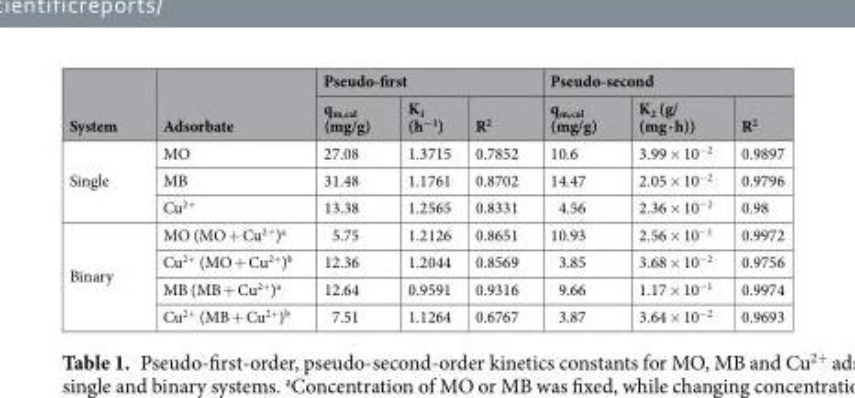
<table><thead><tr><td rowspan="2">System</td><td rowspan="2">Adsorbate</td><td colspan="3">Pseudo-first</td><td colspan="3">Pseudo-second</td></tr><tr><td>q<sub>m,cal</sub> (mg/g)</td><td>K<sub>1</sub> (h<sup>−1</sup>)</td><td>R<sup>2</sup></td><td>q<sub>m,cal</sub> (mg/g)</td><td>K<sub>2</sub> (g/ (mg · h))</td><td>R<sup>2</sup></td></tr></thead><tbody><tr><td rowspan="3">Single</td><td>MO</td><td>27.08</td><td>1.3715</td><td>0.7852</td><td>10.6</td><td>3.99 × 10<sup>−2</sup></td><td>0.9897</td></tr><tr><td>MB</td><td>31.48</td><td>1.1761</td><td>0.8702</td><td>14.47</td><td>2.05 × 10<sup>−2</sup></td><td>0.9796</td></tr><tr><td>Cu<sup>2+</sup></td><td>13.38</td><td>1.2565</td><td>0.8331</td><td>4.56</td><td>2.36 × 10<sup>−2</sup></td><td>0.98</td></tr><tr><td rowspan="4">Binary</td><td>MO (MO + Cu<sup>2+</sup>)<sup>a</sup></td><td>5.75</td><td>1.2126</td><td>0.8651</td><td>10.93</td><td>2.56 × 10<sup>−1</sup></td><td>0.9972</td></tr><tr><td>Cu<sup>2+</sup> (MO + Cu<sup>2+</sup>)<sup>b</sup></td><td>12.36</td><td>1.2044</td><td>0.8569</td><td>3.85</td><td>3.68 × 10<sup>−2</sup></td><td>0.9756</td></tr><tr><td>MB (MB + Cu<sup>2+</sup>)<sup>a</sup></td><td>12.64</td><td>0.9591</td><td>0.9316</td><td>9.66</td><td>1.17 × 10<sup>−1</sup></td><td>0.9974</td></tr><tr><td>Cu<sup>2+</sup> (MB + Cu<sup>2+</sup>)<sup>b</sup></td><td>7.51</td><td>1.1264</td><td>0.6767</td><td>3.87</td><td>3.64 × 10<sup>−2</sup></td><td>0.9693</td></tr></tbody></table>